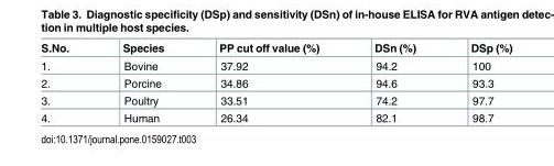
<table><thead><tr><td>S.No.</td><td>Species</td><td>PP cut off value (%)</td><td>DSn (%)</td><td>DSp (%)</td></tr></thead><tbody><tr><td>1.</td><td>Bovine</td><td>37.92</td><td>94.2</td><td>100</td></tr><tr><td>2.</td><td>Porcine</td><td>34.86</td><td>94.6</td><td>93.3</td></tr><tr><td>3.</td><td>Poultry</td><td>33.51</td><td>74.2</td><td>97.7</td></tr><tr><td>4.</td><td>Human</td><td>26.34</td><td>82.1</td><td>98.7</td></tr></tbody></table>